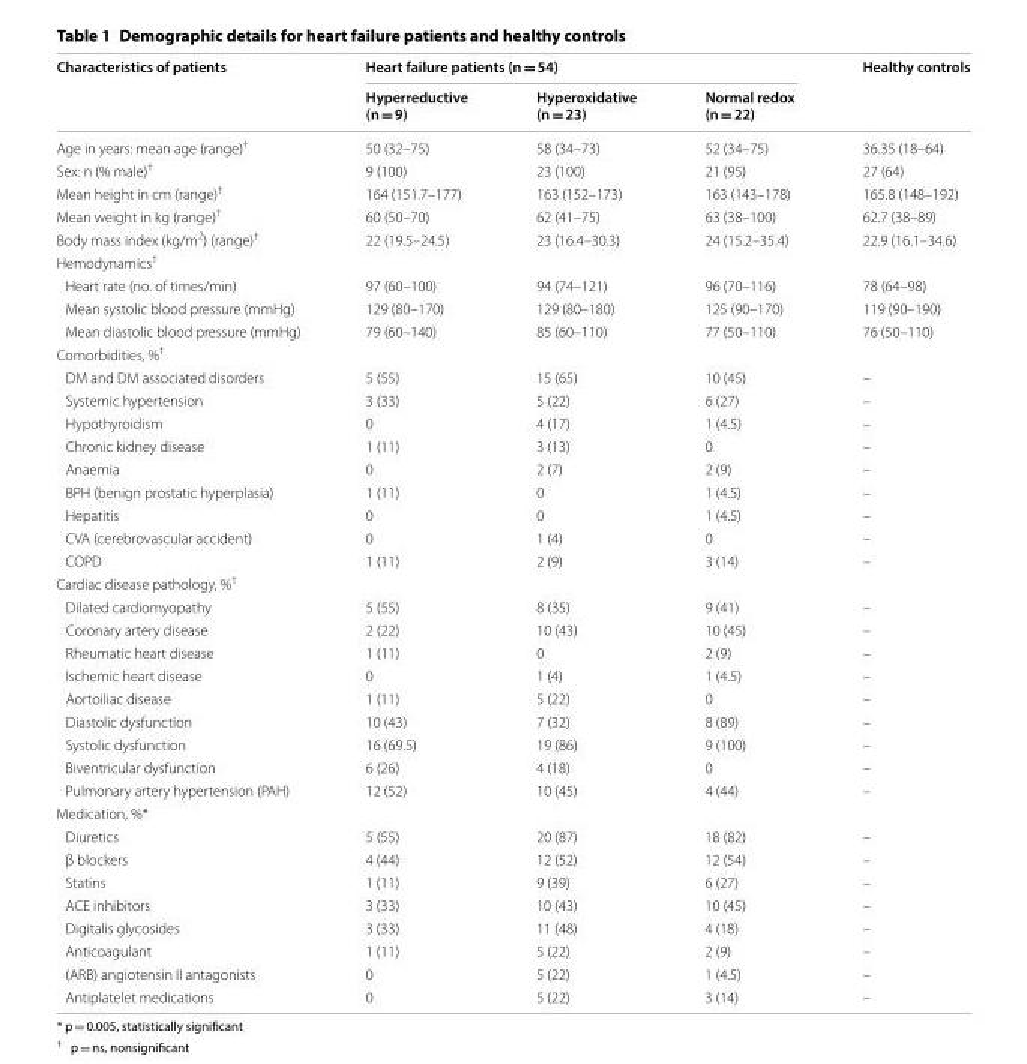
<table><thead><tr><td rowspan="2">Characteristics of patients</td><td colspan="3">Heart failure patients (n = 54)</td><td rowspan="2">Healthy controls</td></tr><tr><td>Hyperreductive (n = 9)</td><td>Hyperoxidative (n = 23)</td><td>Normal redox (n = 22)</td></tr></thead><tbody><tr><td>Age in years: mean age (range)<sup>†</sup></td><td>50 (32–75)</td><td>58 (34–73)</td><td>52 (34–75)</td><td>36.35 (18–64)</td></tr><tr><td>Sex: n (% male)<sup>†</sup></td><td>9 (100)</td><td>23 (100)</td><td>21 (95)</td><td>27 (64)</td></tr><tr><td>Mean height in cm (range)<sup>†</sup></td><td>164 (151.7–177)</td><td>163 (152–173)</td><td>163 (143–178)</td><td>165.8 (148–192)</td></tr><tr><td>Mean weight in kg (range)<sup>†</sup></td><td>60 (50–70)</td><td>62 (41–75)</td><td>63 (38–100)</td><td>62.7 (38–89)</td></tr><tr><td>Body mass index (kg/m<sup>2</sup>) (range)<sup>†</sup></td><td>22 (19.5–24.5)</td><td>23 (16.4–30.3)</td><td>24 (15.2–35.4)</td><td>22.9 (16.1–34.6)</td></tr><tr><td colspan="5">Hemodynamics<sup>†</sup></td></tr><tr><td>Heart rate (no. of times/min)</td><td>97 (60–100)</td><td>94 (74–121)</td><td>96 (70–116)</td><td>78 (64–98)</td></tr><tr><td>Mean systolic blood pressure (mmHg)</td><td>129 (80–170)</td><td>129 (80–180)</td><td>125 (90–170)</td><td>119 (90–190)</td></tr><tr><td>Mean diastolic blood pressure (mmHg)</td><td>79 (60–140)</td><td>85 (60–110)</td><td>77 (50–110)</td><td>76 (50–110)</td></tr><tr><td colspan="5">Comorbidities, %<sup>†</sup></td></tr><tr><td>DM and DM associated disorders</td><td>5 (55)</td><td>15 (65)</td><td>10 (45)</td><td>–</td></tr><tr><td>Systemic hypertension</td><td>3 (33)</td><td>5 (22)</td><td>6 (27)</td><td>–</td></tr><tr><td>Hypothyroidism</td><td>0</td><td>4 (17)</td><td>1 (4.5)</td><td>–</td></tr><tr><td>Chronic kidney disease</td><td>1 (11)</td><td>3 (13)</td><td>0</td><td>–</td></tr><tr><td>Anaemia</td><td>0</td><td>2 (7)</td><td>2 (9)</td><td>–</td></tr><tr><td>BPH (benign prostatic hyperplasia)</td><td>1 (11)</td><td>0</td><td>1 (4.5)</td><td>–</td></tr><tr><td>Hepatitis</td><td>0</td><td>0</td><td>1 (4.5)</td><td>–</td></tr><tr><td>CVA (cerebrovascular accident)</td><td>0</td><td>1 (4)</td><td>0</td><td>–</td></tr><tr><td>COPD</td><td>1 (11)</td><td>2 (9)</td><td>3 (14)</td><td>–</td></tr><tr><td colspan="5">Cardiac disease pathology, %<sup>†</sup></td></tr><tr><td>Dilated cardiomyopathy</td><td>5 (55)</td><td>8 (35)</td><td>9 (41)</td><td>–</td></tr><tr><td>Coronary artery disease</td><td>2 (22)</td><td>10 (43)</td><td>10 (45)</td><td>–</td></tr><tr><td>Rheumatic heart disease</td><td>1 (11)</td><td>0</td><td>2 (9)</td><td>–</td></tr><tr><td>Ischemic heart disease</td><td>0</td><td>1 (4)</td><td>1 (4.5)</td><td>–</td></tr><tr><td>Aortoiliac disease</td><td>1 (11)</td><td>5 (22)</td><td>0</td><td>–</td></tr><tr><td>Diastolic dysfunction</td><td>10 (43)</td><td>7 (32)</td><td>8 (89)</td><td>–</td></tr><tr><td>Systolic dysfunction</td><td>16 (69.5)</td><td>19 (86)</td><td>9 (100)</td><td>–</td></tr><tr><td>Biventricular dysfunction</td><td>6 (26)</td><td>4 (18)</td><td>0</td><td>–</td></tr><tr><td>Pulmonary artery hypertension (PAH)</td><td>12 (52)</td><td>10 (45)</td><td>4 (44)</td><td>–</td></tr><tr><td colspan="5">Medication, %*</td></tr><tr><td>Diuretics</td><td>5 (55)</td><td>20 (87)</td><td>18 (82)</td><td>–</td></tr><tr><td>β blockers</td><td>4 (44)</td><td>12 (52)</td><td>12 (54)</td><td>–</td></tr><tr><td>Statins</td><td>1 (11)</td><td>9 (39)</td><td>6 (27)</td><td>–</td></tr><tr><td>ACE inhibitors</td><td>3 (33)</td><td>10 (43)</td><td>10 (45)</td><td>–</td></tr><tr><td>Digitalis glycosides</td><td>3 (33)</td><td>11 (48)</td><td>4 (18)</td><td>–</td></tr><tr><td>Anticoagulant</td><td>1 (11)</td><td>5 (22)</td><td>2 (9)</td><td>–</td></tr><tr><td>(ARB) angiotensin II antagonists</td><td>0</td><td>5 (22)</td><td>1 (4.5)</td><td>–</td></tr><tr><td>Antiplatelet medications</td><td>0</td><td>5 (22)</td><td>3 (14)</td><td>–</td></tr></tbody></table>